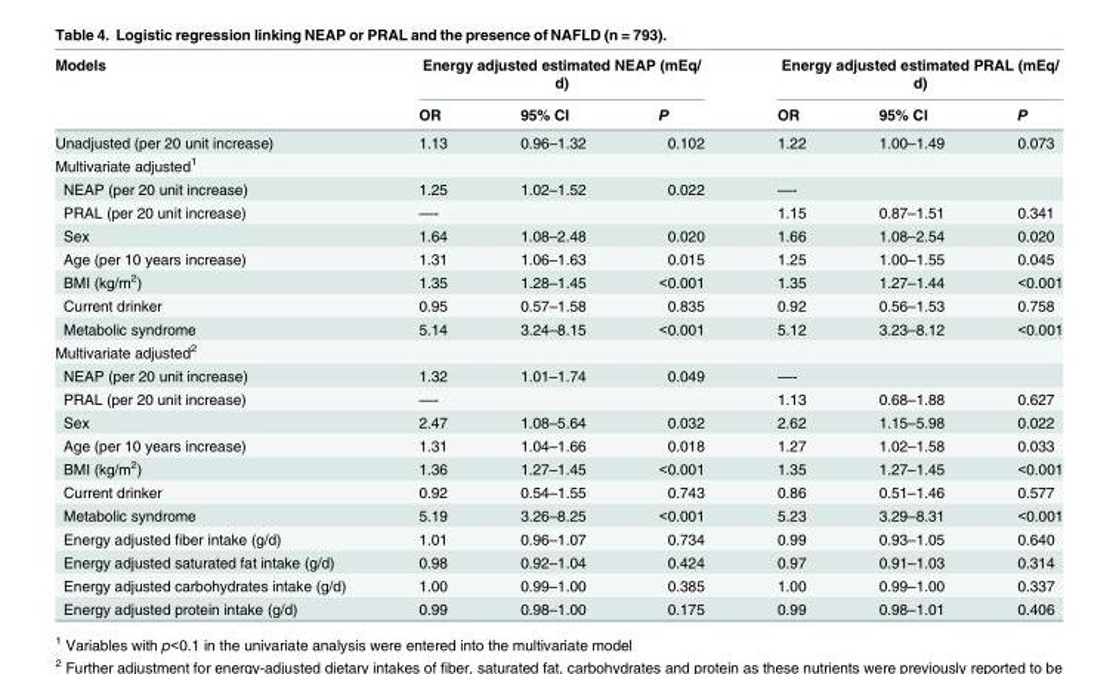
<table><thead><tr><td rowspan="2">Models</td><td colspan="3">Energy adjusted estimated NEAP (mEq/ d)</td><td colspan="3">Energy adjusted estimated PRAL (mEq/ d)</td></tr><tr><td>OR</td><td>95% CI</td><td>P</td><td>OR</td><td>95% CI</td><td>P</td></tr></thead><tbody><tr><td>Unadjusted (per 20 unit increase)</td><td>1.13</td><td>0.96–1.32</td><td>0.102</td><td>1.22</td><td>1.00–1.49</td><td>0.073</td></tr><tr><td colspan="7">Multivariate adjusted<sup>1</sup></td></tr><tr><td>NEAP (per 20 unit increase)</td><td>1.25</td><td>1.02–1.52</td><td>0.022</td><td>—-</td><td></td><td></td></tr><tr><td>PRAL (per 20 unit increase)</td><td>—-</td><td></td><td></td><td>1.15</td><td>0.87–1.51</td><td>0.341</td></tr><tr><td>Sex</td><td>1.64</td><td>1.08–2.48</td><td>0.020</td><td>1.66</td><td>1.08–2.54</td><td>0.020</td></tr><tr><td>Age (per 10 years increase)</td><td>1.31</td><td>1.06–1.63</td><td>0.015</td><td>1.25</td><td>1.00–1.55</td><td>0.045</td></tr><tr><td>BMI (kg/m<sup>2</sup>)</td><td>1.35</td><td>1.28–1.45</td><td>&lt;0.001</td><td>1.35</td><td>1.27–1.44</td><td>&lt;0.001</td></tr><tr><td>Current drinker</td><td>0.95</td><td>0.57–1.58</td><td>0.835</td><td>0.92</td><td>0.56–1.53</td><td>0.758</td></tr><tr><td>Metabolic syndrome</td><td>5.14</td><td>3.24–8.15</td><td>&lt;0.001</td><td>5.12</td><td>3.23–8.12</td><td>&lt;0.001</td></tr><tr><td colspan="7">Multivariate adjusted<sup>2</sup></td></tr><tr><td>NEAP (per 20 unit increase)</td><td>1.32</td><td>1.01–1.74</td><td>0.049</td><td>—-</td><td></td><td></td></tr><tr><td>PRAL (per 20 unit increase)</td><td>—-</td><td></td><td></td><td>1.13</td><td>0.68–1.88</td><td>0.627</td></tr><tr><td>Sex</td><td>2.47</td><td>1.08–5.64</td><td>0.032</td><td>2.62</td><td>1.15–5.98</td><td>0.022</td></tr><tr><td>Age (per 10 years increase)</td><td>1.31</td><td>1.04–1.66</td><td>0.018</td><td>1.27</td><td>1.02–1.58</td><td>0.033</td></tr><tr><td>BMI (kg/m<sup>2</sup>)</td><td>1.36</td><td>1.27–1.45</td><td>&lt;0.001</td><td>1.35</td><td>1.27–1.45</td><td>&lt;0.001</td></tr><tr><td>Current drinker</td><td>0.92</td><td>0.54–1.55</td><td>0.743</td><td>0.86</td><td>0.51–1.46</td><td>0.577</td></tr><tr><td>Metabolic syndrome</td><td>5.19</td><td>3.26–8.25</td><td>&lt;0.001</td><td>5.23</td><td>3.29–8.31</td><td>&lt;0.001</td></tr><tr><td>Energy adjusted fiber intake (g/d)</td><td>1.01</td><td>0.96–1.07</td><td>0.734</td><td>0.99</td><td>0.93–1.05</td><td>0.640</td></tr><tr><td>Energy adjusted saturated fat intake (g/d)</td><td>0.98</td><td>0.92–1.04</td><td>0.424</td><td>0.97</td><td>0.91–1.03</td><td>0.314</td></tr><tr><td>Energy adjusted carbohydrates intake (g/d)</td><td>1.00</td><td>0.99–1.00</td><td>0.385</td><td>1.00</td><td>0.99–1.00</td><td>0.337</td></tr><tr><td>Energy adjusted protein intake (g/d)</td><td>0.99</td><td>0.98–1.00</td><td>0.175</td><td>0.99</td><td>0.98–1.01</td><td>0.406</td></tr></tbody></table>